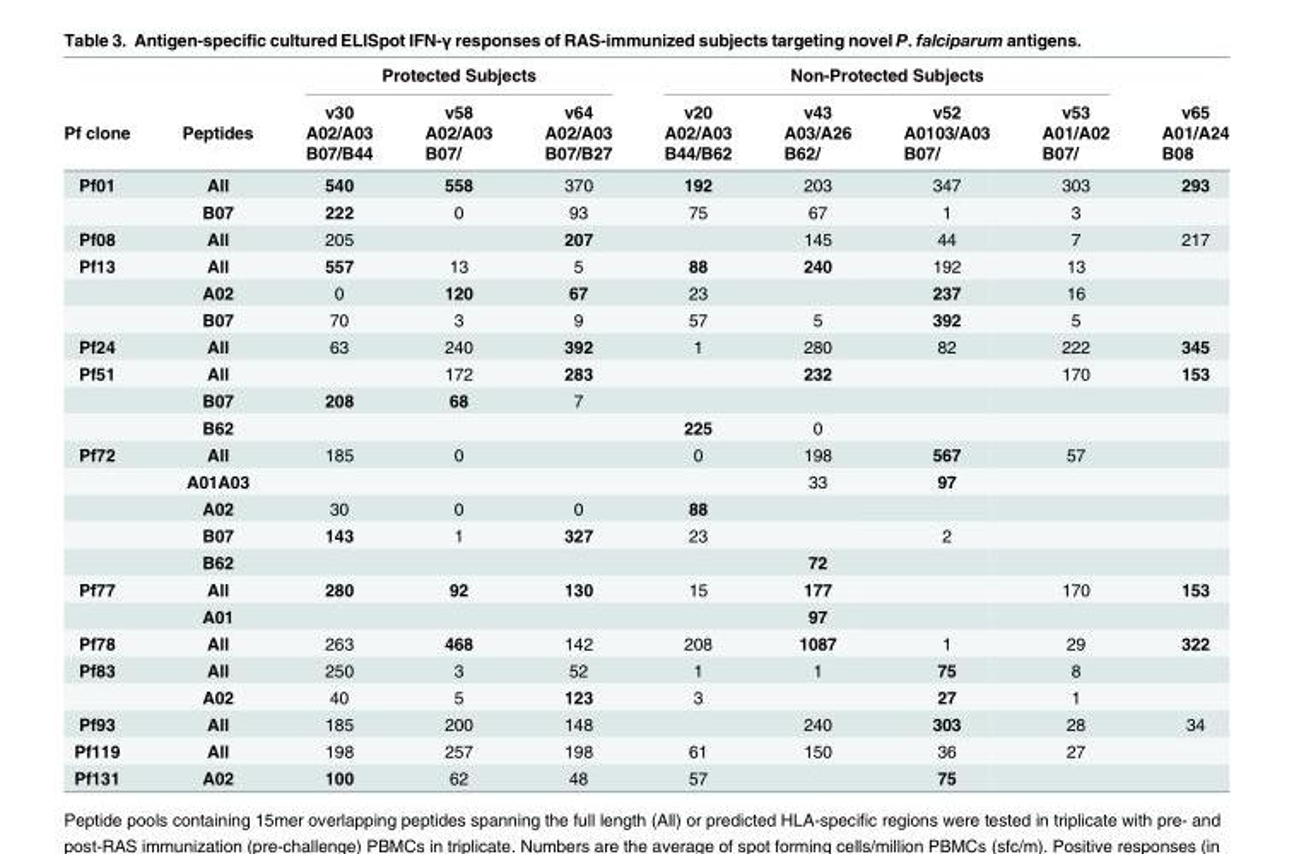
<table><thead><tr><td rowspan="4">Pf clone</td><td rowspan="4">Peptides</td><td colspan="3">Protected Subjects</td><td colspan="4">Non-Protected Subjects</td><td rowspan="4">v65 A01/A24 B08</td></tr><tr><td rowspan="3">v30 A02/A03 B07/B44</td><td rowspan="3">v58 A02/A03 B07/</td><td rowspan="3">v64 A02/A03 B07/B27</td><td rowspan="3">v20 A02/A03 B44/B62</td><td rowspan="3">v43 A03/A26 B62/</td><td rowspan="3">v52 A0103/A03 B07/</td><td rowspan="3">v53 A01/A02 B07/</td></tr><tr></tr><tr></tr></thead><tbody><tr><td rowspan="2">Pf01</td><td>All</td><td>540</td><td>558</td><td>370</td><td>192</td><td>203</td><td>347</td><td>303</td><td>293</td></tr><tr><td>B07</td><td>222</td><td>0</td><td>93</td><td>75</td><td>67</td><td>1</td><td>3</td><td></td></tr><tr><td>Pf08</td><td>All</td><td>205</td><td></td><td>207</td><td></td><td>145</td><td>44</td><td>7</td><td>217</td></tr><tr><td rowspan="3">Pf13</td><td>All</td><td>557</td><td>13</td><td>5</td><td>88</td><td>240</td><td>192</td><td>13</td><td></td></tr><tr><td>A02</td><td>0</td><td>120</td><td>67</td><td>23</td><td></td><td>237</td><td>16</td><td></td></tr><tr><td>B07</td><td>70</td><td>3</td><td>9</td><td>57</td><td>5</td><td>392</td><td>5</td><td></td></tr><tr><td>Pf24</td><td>All</td><td>63</td><td>240</td><td>392</td><td>1</td><td>280</td><td>82</td><td>222</td><td>345</td></tr><tr><td rowspan="3">Pf51</td><td>All</td><td></td><td>172</td><td>283</td><td></td><td>232</td><td></td><td>170</td><td>153</td></tr><tr><td>B07</td><td>208</td><td>68</td><td>7</td><td></td><td></td><td></td><td></td><td></td></tr><tr><td>B62</td><td></td><td></td><td></td><td>225</td><td>0</td><td></td><td></td><td></td></tr><tr><td rowspan="5">Pf72</td><td>All</td><td>185</td><td>0</td><td></td><td>0</td><td>198</td><td>567</td><td>57</td><td></td></tr><tr><td>A01A03</td><td></td><td></td><td></td><td></td><td>33</td><td>97</td><td></td><td></td></tr><tr><td>A02</td><td>30</td><td>0</td><td>0</td><td>88</td><td></td><td></td><td></td><td></td></tr><tr><td>B07</td><td>143</td><td>1</td><td>327</td><td>23</td><td></td><td>2</td><td></td><td></td></tr><tr><td>B62</td><td></td><td></td><td></td><td></td><td>72</td><td></td><td></td><td></td></tr><tr><td rowspan="2">Pf77</td><td>All</td><td>280</td><td>92</td><td>130</td><td>15</td><td>177</td><td></td><td>170</td><td>153</td></tr><tr><td>A01</td><td></td><td></td><td></td><td></td><td>97</td><td></td><td></td><td></td></tr><tr><td>Pf78</td><td>All</td><td>263</td><td>468</td><td>142</td><td>208</td><td>1087</td><td>1</td><td>29</td><td>322</td></tr><tr><td rowspan="2">Pf83</td><td>All</td><td>250</td><td>3</td><td>52</td><td>1</td><td>1</td><td>75</td><td>8</td><td></td></tr><tr><td>A02</td><td>40</td><td>5</td><td>123</td><td>3</td><td></td><td>27</td><td>1</td><td></td></tr><tr><td>Pf93</td><td>All</td><td>185</td><td>200</td><td>148</td><td></td><td>240</td><td>303</td><td>28</td><td>34</td></tr><tr><td>Pf119</td><td>All</td><td>198</td><td>257</td><td>198</td><td>61</td><td>150</td><td>36</td><td>27</td><td></td></tr><tr><td>Pf131</td><td>A02</td><td>100</td><td>62</td><td>48</td><td>57</td><td></td><td>75</td><td></td><td></td></tr></tbody></table>